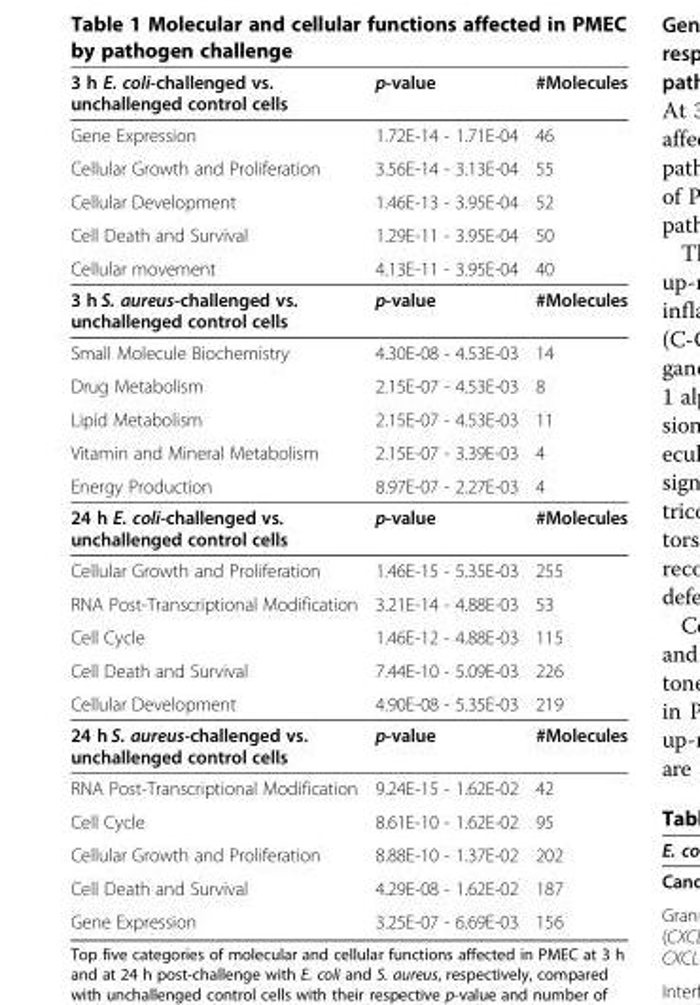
<table><thead><tr><td>3 h E. coli-challenged vs. unchallenged control cells</td><td>p-value</td><td>#Molecules</td></tr></thead><tbody><tr><td>Gene Expression</td><td>1.72E-14 - 1.71E-04</td><td>46</td></tr><tr><td>Cellular Growth and Proliferation</td><td>3.56E-14 - 3.13E-04</td><td>55</td></tr><tr><td>Cellular Development</td><td>1.46E-13 - 3.95E-04</td><td>52</td></tr><tr><td>Cell Death and Survival</td><td>1.29E-11 - 3.95E-04</td><td>50</td></tr><tr><td>Cellular movement</td><td>4.13E-11 - 3.95E-04</td><td>40</td></tr><tr><td>3 h S. aureus-challenged vs. unchallenged control cells</td><td>p-value</td><td>#Molecules</td></tr><tr><td>Small Molecule Biochemistry</td><td>4.30E-08 - 4.53E-03</td><td>14</td></tr><tr><td>Drug Metabolism</td><td>2.15E-07 - 4.53E-03</td><td>8</td></tr><tr><td>Lipid Metabolism</td><td>2.15E-07 - 4.53E-03</td><td>11</td></tr><tr><td>Vitamin and Mineral Metabolism</td><td>2.15E-07 - 3.39E-03</td><td>4</td></tr><tr><td>Energy Production</td><td>8.97E-07 - 2.27E-03</td><td>4</td></tr><tr><td>24 h E. coli-challenged vs. unchallenged control cells</td><td>p-value</td><td>#Molecules</td></tr><tr><td>Cellular Growth and Proliferation</td><td>1.46E-15 - 5.35E-03</td><td>255</td></tr><tr><td>RNA Post-Transcriptional Modification</td><td>3.21E-14 - 4.88E-03</td><td>53</td></tr><tr><td>Cell Cycle</td><td>1.46E-12 - 4.88E-03</td><td>115</td></tr><tr><td>Cell Death and Survival</td><td>7.44E-10 - 5.09E-03</td><td>226</td></tr><tr><td>Cellular Development</td><td>4.90E-08 - 5.35E-03</td><td>219</td></tr><tr><td>24 h S. aureus-challenged vs. unchallenged control cells</td><td>p-value</td><td>#Molecules</td></tr><tr><td>RNA Post-Transcriptional Modification</td><td>9.24E-15 - 1.62E-02</td><td>42</td></tr><tr><td>Cell Cycle</td><td>8.61E-10 - 1.62E-02</td><td>95</td></tr><tr><td>Cellular Growth and Proliferation</td><td>8.88E-10 - 1.37E-02</td><td>202</td></tr><tr><td>Cell Death and Survival</td><td>4.29E-08 - 1.62E-02</td><td>187</td></tr><tr><td>Gene Expression</td><td>3.25E-07 - 6.69E-03</td><td>156</td></tr></tbody></table>